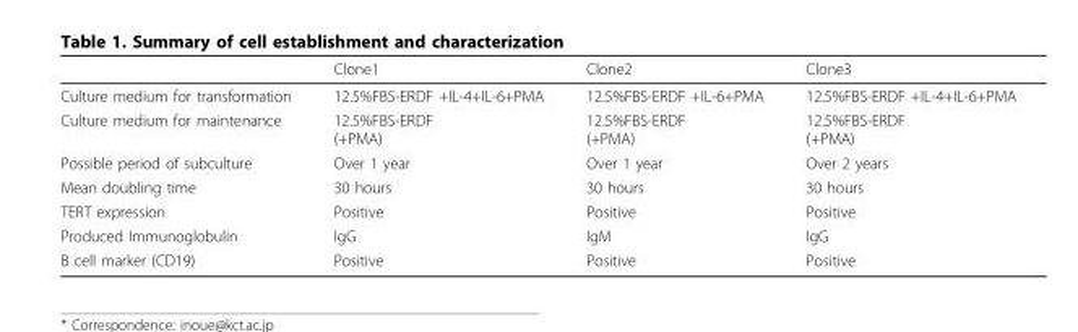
<table><thead><tr><td></td><td>Clone1</td><td>Clone2</td><td>Clone3</td></tr></thead><tbody><tr><td>Culture medium for transformation</td><td>12.5%FBS-ERDF +IL-4+IL-6+PMA</td><td>12.5%FBS-ERDF +IL-6+PMA</td><td>12.5%FBS-ERDF +IL-4+IL-6+PMA</td></tr><tr><td>Culture medium for maintenance</td><td>12.5%FBS-ERDF (+PMA)</td><td>12.5%FBS-ERDF (+PMA)</td><td>12.5%FBS-ERDF (+PMA)</td></tr><tr><td>Possible period of subculture</td><td>Over 1 year</td><td>Over 1 year</td><td>Over 2 years</td></tr><tr><td>Mean doubling time</td><td>30 hours</td><td>30 hours</td><td>30 hours</td></tr><tr><td>TERT expression</td><td>Positive</td><td>Positive</td><td>Positive</td></tr><tr><td>Produced Immunoglobulin</td><td>IgG</td><td>IgM</td><td>IgG</td></tr><tr><td>B cell marker (CD19)</td><td>Positive</td><td>Positive</td><td>Positive</td></tr></tbody></table>